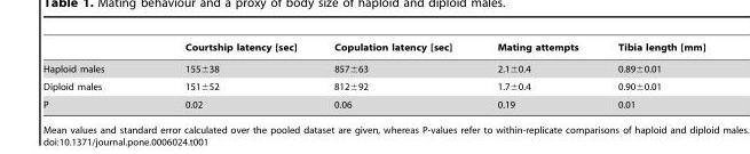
<table><thead><tr><td></td><td>Courtship latency [sec]</td><td>Copulation latency [sec]</td><td>Mating attempts</td><td>Tibia length [mm]</td></tr></thead><tbody><tr><td>Haploid males</td><td>155±38</td><td>857±63</td><td>2.1±0.4</td><td>0.89±0.01</td></tr><tr><td>Diploid males</td><td>151±52</td><td>812±92</td><td>1.7±0.4</td><td>0.90±0.01</td></tr><tr><td>P</td><td>0.02</td><td>0.06</td><td>0.19</td><td>0.01</td></tr></tbody></table>